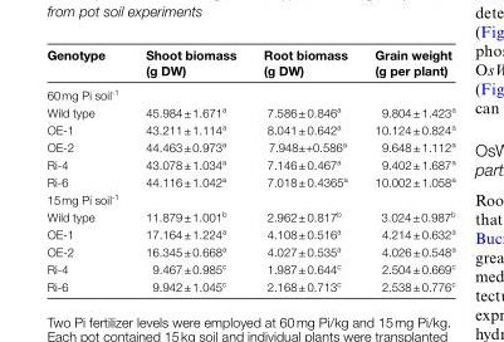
<table><thead><tr><td>Genotype</td><td>Shoot biomass (g DW)</td><td>Root biomass (g DW)</td><td>Grain weight (g per plant)</td></tr></thead><tbody><tr><td colspan="4">60 mg Pi soil<sup>-1</sup></td></tr><tr><td>Wild type</td><td>45.984 ± 1.671<sup>a</sup></td><td>7.586 ± 0.846<sup>a</sup></td><td>9.804 ± 1.423<sup>a</sup></td></tr><tr><td>OE-1</td><td>43.211 ± 1.114<sup>a</sup></td><td>8.041 ± 0.642<sup>a</sup></td><td>10.124 ± 0.824<sup>a</sup></td></tr><tr><td>OE-2</td><td>44.463 ± 0.973<sup>a</sup></td><td>7.948±+0.586<sup>a</sup></td><td>9.648 ± 1.112<sup>a</sup></td></tr><tr><td>Ri-4</td><td>43.078 ± 1.034<sup>a</sup></td><td>7.146 ± 0.467<sup>a</sup></td><td>9.402 ± 1.687<sup>a</sup></td></tr><tr><td>Ri-6</td><td>44.116 ± 1.042<sup>a</sup></td><td>7.018 ± 0.4365<sup>a</sup></td><td>10.002 ± 1.058<sup>a</sup></td></tr><tr><td colspan="4">15 mg Pi soil<sup>-1</sup></td></tr><tr><td>Wild type</td><td>11.879 ± 1.001<sup>b</sup></td><td>2.962 ± 0.817<sup>b</sup></td><td>3.024 ± 0.987<sup>b</sup></td></tr><tr><td>OE-1</td><td>17.164 ± 1.224<sup>a</sup></td><td>4.108 ± 0.516<sup>a</sup></td><td>4.214 ± 0.632<sup>a</sup></td></tr><tr><td>OE-2</td><td>16.345 ± 0.668<sup>a</sup></td><td>4.027 ± 0.535<sup>a</sup></td><td>4.026 ± 0.548<sup>a</sup></td></tr><tr><td>Ri-4</td><td>9.467 ± 0.985<sup>c</sup></td><td>1.987 ± 0.644<sup>c</sup></td><td>2.504 ± 0.669<sup>c</sup></td></tr><tr><td>Ri-6</td><td>9.942 ± 1.045<sup>c</sup></td><td>2.168 ± 0.713<sup>c</sup></td><td>2.538 ± 0.776<sup>c</sup></td></tr></tbody></table>